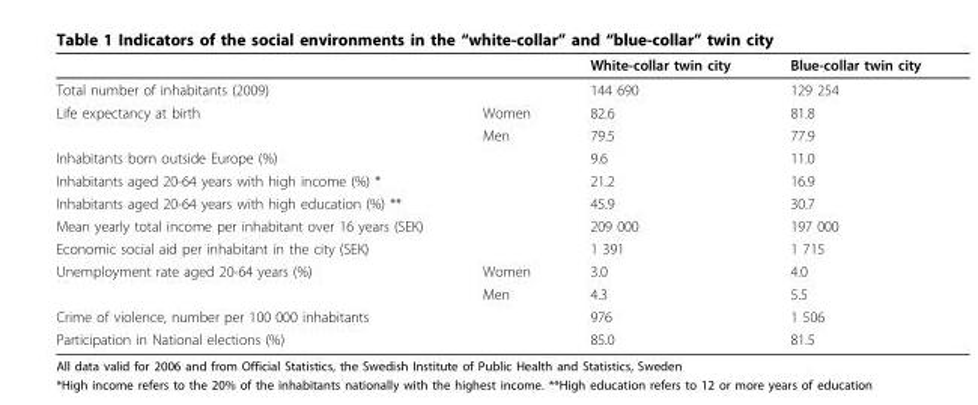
<table><thead><tr><td></td><td></td><td>White-collar twin city</td><td>Blue-collar twin city</td></tr></thead><tbody><tr><td>Total number of inhabitants (2009)</td><td></td><td>144 690</td><td>129 254</td></tr><tr><td rowspan="2">Life expectancy at birth</td><td>Women</td><td>82.6</td><td>81.8</td></tr><tr><td>Men</td><td>79.5</td><td>77.9</td></tr><tr><td>Inhabitants born outside Europe (%)</td><td></td><td>9.6</td><td>11.0</td></tr><tr><td>Inhabitants aged 20-64 years with high income (%) *</td><td></td><td>21.2</td><td>16.9</td></tr><tr><td>Inhabitants aged 20-64 years with high education (%) **</td><td></td><td>45.9</td><td>30.7</td></tr><tr><td>Mean yearly total income per inhabitant over 16 years (SEK)</td><td></td><td>209 000</td><td>197 000</td></tr><tr><td>Economic social aid per inhabitant in the city (SEK)</td><td></td><td>1 391</td><td>1 715</td></tr><tr><td rowspan="2">Unemployment rate aged 20-64 years (%)</td><td>Women</td><td>3.0</td><td>4.0</td></tr><tr><td>Men</td><td>4.3</td><td>5.5</td></tr><tr><td>Crime of violence, number per 100 000 inhabitants</td><td></td><td>976</td><td>1 506</td></tr><tr><td>Participation in National elections (%)</td><td></td><td>85.0</td><td>81.5</td></tr></tbody></table>